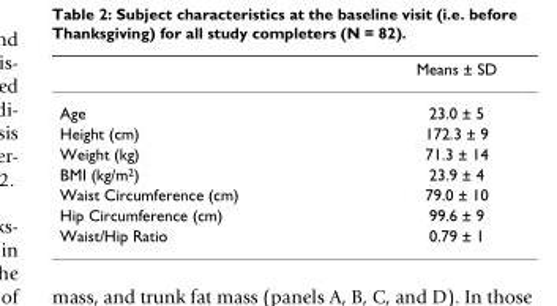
<table><thead><tr><td></td><td>Means ± SD</td></tr></thead><tbody><tr><td>Age</td><td>23.0 ± 5</td></tr><tr><td>Height (cm)</td><td>172.3 ± 9</td></tr><tr><td>Weight (kg)</td><td>71.3 ± 14</td></tr><tr><td>BMI (kg/m<sup>2</sup>)</td><td>23.9 ± 4</td></tr><tr><td>Waist Circumference (cm)</td><td>79.0 ± 10</td></tr><tr><td>Hip Circumference (cm)</td><td>99.6 ± 9</td></tr><tr><td>Waist/Hip Ratio</td><td>0.79 ± 1</td></tr></tbody></table>